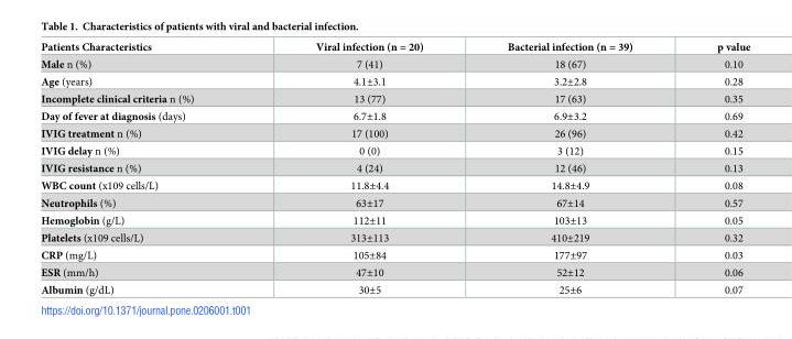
<table><thead><tr><td>Patients Characteristics</td><td>Viral infection (n = 20)</td><td>Bacterial infection (n = 39)</td><td>p value</td></tr></thead><tbody><tr><td>Male n (%)</td><td>7 (41)</td><td>18 (67)</td><td>0.10</td></tr><tr><td>Age (years)</td><td>4.1±3.1</td><td>3.2±2.8</td><td>0.28</td></tr><tr><td>Incomplete clinical criteria n (%)</td><td>13 (77)</td><td>17 (63)</td><td>0.35</td></tr><tr><td>Day of fever at diagnosis (days)</td><td>6.7±1.8</td><td>6.9±3.2</td><td>0.69</td></tr><tr><td>IVIG treatment n (%)</td><td>17 (100)</td><td>26 (96)</td><td>0.42</td></tr><tr><td>IVIG delay n (%)</td><td>0 (0)</td><td>3 (12)</td><td>0.15</td></tr><tr><td>IVIG resistance n (%)</td><td>4 (24)</td><td>12 (46)</td><td>0.13</td></tr><tr><td>WBC count (x109 cells/L)</td><td>11.8±4.4</td><td>14.8±4.9</td><td>0.08</td></tr><tr><td>Neutrophils (%)</td><td>63±17</td><td>67±14</td><td>0.57</td></tr><tr><td>Hemoglobin (g/L)</td><td>112±11</td><td>103±13</td><td>0.05</td></tr><tr><td>Platelets (x109 cells/L)</td><td>313±113</td><td>410±219</td><td>0.32</td></tr><tr><td>CRP (mg/L)</td><td>105±84</td><td>177±97</td><td>0.03</td></tr><tr><td>ESR (mm/h)</td><td>47±10</td><td>52±12</td><td>0.06</td></tr><tr><td>Albumin (g/dL)</td><td>30±5</td><td>25±6</td><td>0.07</td></tr></tbody></table>